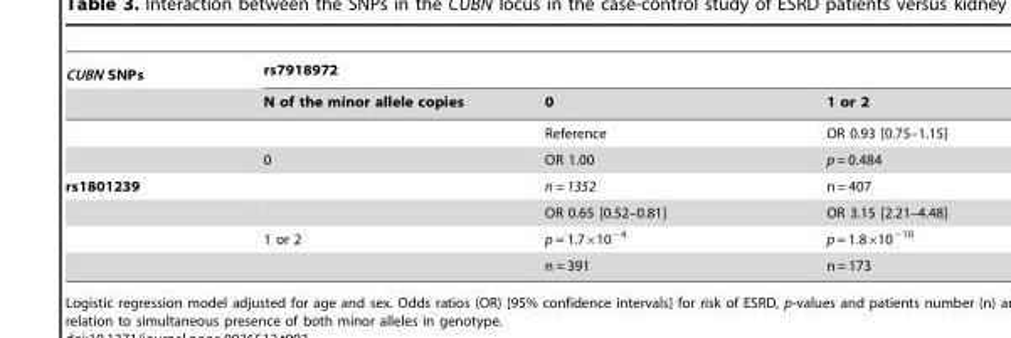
<table><thead><tr><td rowspan="2">CUBN SNPs</td><td colspan="3">rs7918972</td></tr><tr><td>N of the minor allele copies</td><td>0</td><td>1 or 2</td></tr></thead><tbody><tr><td></td><td></td><td>Reference</td><td>OR 0.93 [0.75–1.15]</td></tr><tr><td></td><td>0</td><td>OR 1.00</td><td>p = 0.484</td></tr><tr><td rowspan="4">rs1801239</td><td></td><td>n = 1352</td><td>n = 407</td></tr><tr><td></td><td>OR 0.65 [0.52–0.81]</td><td>OR 3.15 [2.21–4.48]</td></tr><tr><td>1 or 2</td><td>p = 1.7×10<sup>−4</sup></td><td>p = 1.8×10<sup>−10</sup></td></tr><tr><td></td><td>n = 391</td><td>n = 173</td></tr></tbody></table>